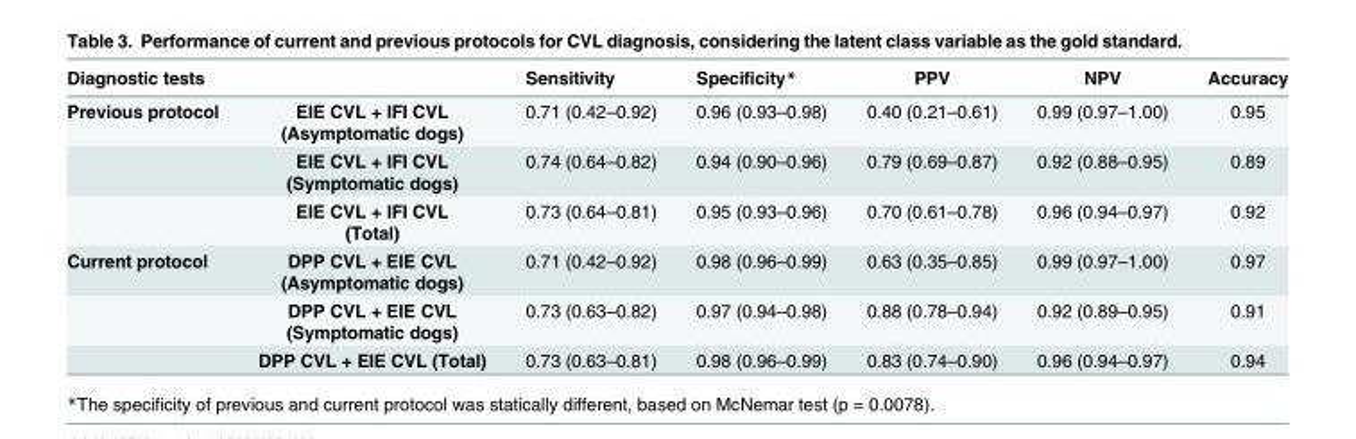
<table><thead><tr><td colspan="2">Diagnostic tests</td><td rowspan="2">Sensitivity 0.71 (0.42–0.92)</td><td rowspan="2">Specificity* 0.96 (0.93–0.98)</td><td rowspan="2">PPV 0.40 (0.21–0.61)</td><td rowspan="2">NPV 0.99 (0.97–1.00)</td><td rowspan="2">Accuracy 0.95</td></tr><tr><td>Previous protocol</td><td>EIE CVL + IFI CVL (Asymptomatic dogs)</td></tr></thead><tbody><tr><td></td><td>EIE CVL + IFI CVL (Symptomatic dogs)</td><td>0.74 (0.64–0.82)</td><td>0.94 (0.90–0.96)</td><td>0.79 (0.69–0.87)</td><td>0.92 (0.88–0.95)</td><td>0.89</td></tr><tr><td></td><td>EIE CVL + IFI CVL (Total)</td><td>0.73 (0.64–0.81)</td><td>0.95 (0.93–0.96)</td><td>0.70 (0.61–0.78)</td><td>0.96 (0.94–0.97)</td><td>0.92</td></tr><tr><td rowspan="3">Current protocol</td><td>DPP CVL + EIE CVL (Asymptomatic dogs)</td><td>0.71 (0.42–0.92)</td><td>0.98 (0.96–0.99)</td><td>0.63 (0.35–0.85)</td><td>0.99 (0.97–1.00)</td><td>0.97</td></tr><tr><td>DPP CVL + EIE CVL (Symptomatic dogs)</td><td>0.73 (0.63–0.82)</td><td>0.97 (0.94–0.98)</td><td>0.88 (0.78–0.94)</td><td>0.92 (0.89–0.95)</td><td>0.91</td></tr><tr><td>DPP CVL + EIE CVL (Total)</td><td>0.73 (0.63–0.81)</td><td>0.98 (0.96–0.99)</td><td>0.83 (0.74–0.90)</td><td>0.96 (0.94–0.97)</td><td>0.94</td></tr></tbody></table>